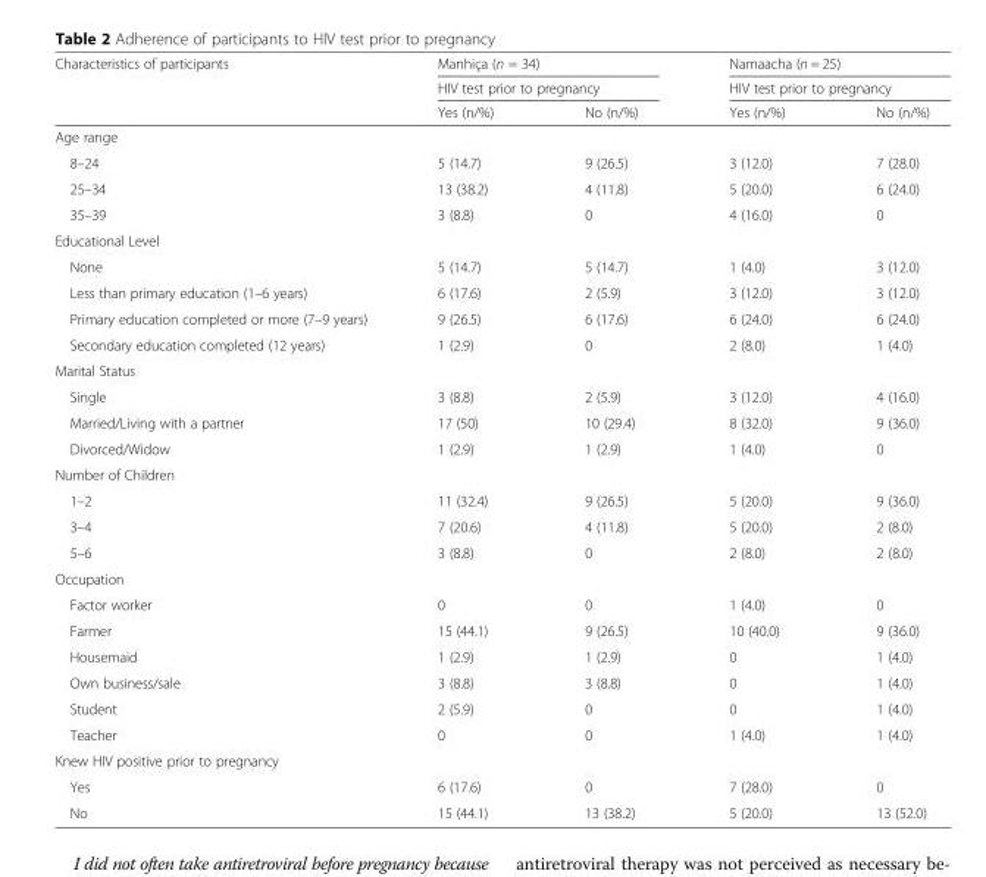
<table><thead><tr><td rowspan="3">Characteristics of participants</td><td rowspan="2" colspan="2">Manhiça (n = 34) HIV test prior to pregnancy</td><td rowspan="2" colspan="2">Namaacha (n = 25) HIV test prior to pregnancy</td></tr><tr></tr><tr><td>Yes (n/%)</td><td>No (n/%)</td><td>Yes (n/%)</td><td>No (n/%)</td></tr></thead><tbody><tr><td colspan="5">Age range</td></tr><tr><td>8–24</td><td>5 (14.7)</td><td>9 (26.5)</td><td>3 (12.0)</td><td>7 (28.0)</td></tr><tr><td>25–34</td><td>13 (38.2)</td><td>4 (11.8)</td><td>5 (20.0)</td><td>6 (24.0)</td></tr><tr><td>35–39</td><td>3 (8.8)</td><td>0</td><td>4 (16.0)</td><td>0</td></tr><tr><td colspan="5">Educational Level</td></tr><tr><td>None</td><td>5 (14.7)</td><td>5 (14.7)</td><td>1 (4.0)</td><td>3 (12.0)</td></tr><tr><td>Less than primary education (1–6 years)</td><td>6 (17.6)</td><td>2 (5.9)</td><td>3 (12.0)</td><td>3 (12.0)</td></tr><tr><td>Primary education completed or more (7–9 years)</td><td>9 (26.5)</td><td>6 (17.6)</td><td>6 (24.0)</td><td>6 (24.0)</td></tr><tr><td>Secondary education completed (12 years)</td><td>1 (2.9)</td><td>0</td><td>2 (8.0)</td><td>1 (4.0)</td></tr><tr><td colspan="5">Marital Status</td></tr><tr><td>Single</td><td>3 (8.8)</td><td>2 (5.9)</td><td>3 (12.0)</td><td>4 (16.0)</td></tr><tr><td>Married/Living with a partner</td><td>17 (50)</td><td>10 (29.4)</td><td>8 (32.0)</td><td>9 (36.0)</td></tr><tr><td>Divorced/Widow</td><td>1 (2.9)</td><td>1 (2.9)</td><td>1 (4.0)</td><td>0</td></tr><tr><td colspan="5">Number of Children</td></tr><tr><td>1–2</td><td>11 (32.4)</td><td>9 (26.5)</td><td>5 (20.0)</td><td>9 (36.0)</td></tr><tr><td>3–4</td><td>7 (20.6)</td><td>4 (11.8)</td><td>5 (20.0)</td><td>2 (8.0)</td></tr><tr><td>5–6</td><td>3 (8.8)</td><td>0</td><td>2 (8.0)</td><td>2 (8.0)</td></tr><tr><td colspan="5">Occupation</td></tr><tr><td>Factor worker</td><td>0</td><td>0</td><td>1 (4.0)</td><td>0</td></tr><tr><td>Farmer</td><td>15 (44.1)</td><td>9 (26.5)</td><td>10 (40.0)</td><td>9 (36.0)</td></tr><tr><td>Housemaid</td><td>1 (2.9)</td><td>1 (2.9)</td><td>0</td><td>1 (4.0)</td></tr><tr><td>Own business/sale</td><td>3 (8.8)</td><td>3 (8.8)</td><td>0</td><td>1 (4.0)</td></tr><tr><td>Student</td><td>2 (5.9)</td><td>0</td><td>0</td><td>1 (4.0)</td></tr><tr><td>Teacher</td><td>0</td><td>0</td><td>1 (4.0)</td><td>1 (4.0)</td></tr><tr><td colspan="5">Knew HIV positive prior to pregnancy</td></tr><tr><td>Yes</td><td>6 (17.6)</td><td>0</td><td>7 (28.0)</td><td>0</td></tr><tr><td>No</td><td>15 (44.1)</td><td>13 (38.2)</td><td>5 (20.0)</td><td>13 (52.0)</td></tr></tbody></table>